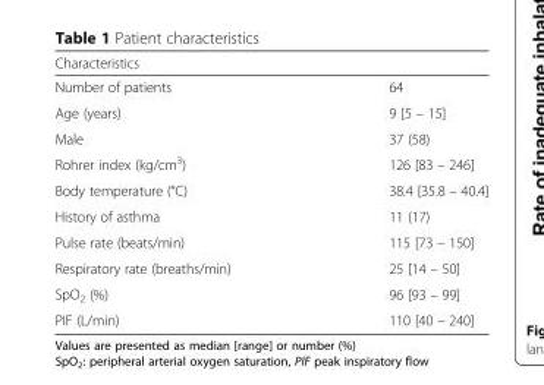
<table><thead><tr><td>Characteristics</td><td></td></tr></thead><tbody><tr><td>Number of patients</td><td>64</td></tr><tr><td>Age (years)</td><td>9 [5 – 15]</td></tr><tr><td>Male</td><td>37 (58)</td></tr><tr><td>Rohrer index (kg/cm<sup>3</sup>)</td><td>126 [83 – 246]</td></tr><tr><td>Body temperature (°C)</td><td>38.4 [35.8 – 40.4]</td></tr><tr><td>History of asthma</td><td>11 (17)</td></tr><tr><td>Pulse rate (beats/min)</td><td>115 [73 – 150]</td></tr><tr><td>Respiratory rate (breaths/min)</td><td>25 [14 – 50]</td></tr><tr><td>SpO<sub>2</sub> (%)</td><td>96 [93 – 99]</td></tr><tr><td>PIF (L/min)</td><td>110 [40 – 240]</td></tr></tbody></table>